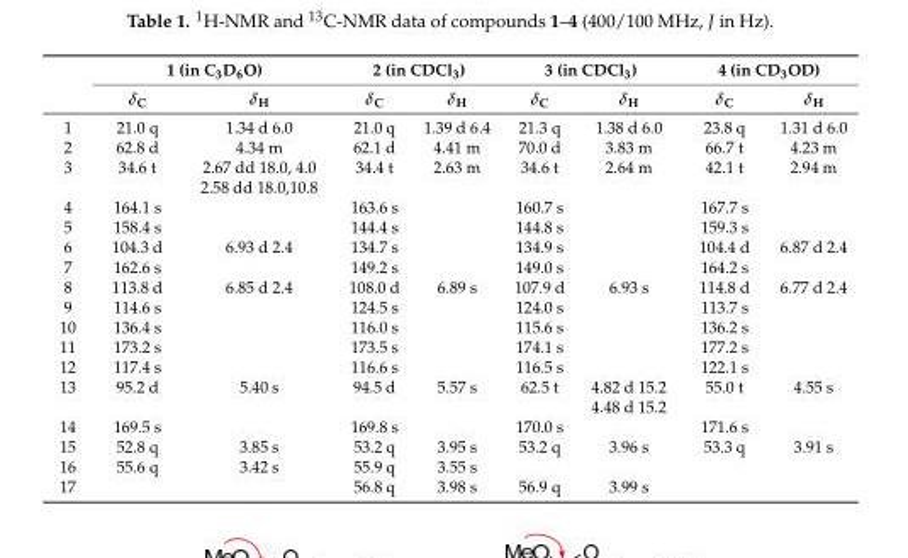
<table><thead><tr><td rowspan="2"></td><td colspan="2">1 (in C<sub>3</sub>D<sub>6</sub>O)</td><td colspan="2">2 (in CDCl<sub>3</sub>)</td><td colspan="2">3 (in CDCl<sub>3</sub>)</td><td colspan="2">4 (in CD<sub>3</sub>OD)</td></tr><tr><td>δ<sub>C</sub></td><td>δ<sub>H</sub></td><td>δ<sub>C</sub></td><td>δ<sub>H</sub></td><td>δ<sub>C</sub></td><td>δ<sub>H</sub></td><td>δ<sub>C</sub></td><td>δ<sub>H</sub></td></tr></thead><tbody><tr><td>1</td><td>21.0 q</td><td>1.34 d 6.0</td><td>21.0 q</td><td>1.39 d 6.4</td><td>21.3 q</td><td>1.38 d 6.0</td><td>23.8 q</td><td>1.31 d 6.0</td></tr><tr><td>2</td><td>62.8 d</td><td>4.34 m</td><td>62.1 d</td><td>4.41 m</td><td>70.0 d</td><td>3.83 m</td><td>66.7 t</td><td>4.23 m</td></tr><tr><td rowspan="2">3</td><td>34.6 t</td><td>2.67 dd 18.0, 4.0</td><td>34.4 t</td><td>2.63 m</td><td>34.6 t</td><td>2.64 m</td><td>42.1 t</td><td>2.94 m</td></tr><tr><td></td><td>2.58 dd 18.0,10.8</td><td></td><td></td><td></td><td></td><td></td><td></td></tr><tr><td>4</td><td>164.1 s</td><td></td><td>163.6 s</td><td></td><td>160.7 s</td><td></td><td>167.7 s</td><td></td></tr><tr><td>5</td><td>158.4 s</td><td></td><td>144.4 s</td><td></td><td>144.8 s</td><td></td><td>159.3 s</td><td></td></tr><tr><td>6</td><td>104.3 d</td><td>6.93 d 2.4</td><td>134.7 s</td><td></td><td>134.9 s</td><td></td><td>104.4 d</td><td>6.87 d 2.4</td></tr><tr><td>7</td><td>162.6 s</td><td></td><td>149.2 s</td><td></td><td>149.0 s</td><td></td><td>164.2 s</td><td></td></tr><tr><td>8</td><td>113.8 d</td><td>6.85 d 2.4</td><td>108.0 d</td><td>6.89 s</td><td>107.9 d</td><td>6.93 s</td><td>114.8 d</td><td>6.77 d 2.4</td></tr><tr><td>9</td><td>114.6 s</td><td></td><td>124.5 s</td><td></td><td>124.0 s</td><td></td><td>113.7 s</td><td></td></tr><tr><td>10</td><td>136.4 s</td><td></td><td>116.0 s</td><td></td><td>115.6 s</td><td></td><td>136.2 s</td><td></td></tr><tr><td>11</td><td>173.2 s</td><td></td><td>173.5 s</td><td></td><td>174.1 s</td><td></td><td>177.2 s</td><td></td></tr><tr><td>12</td><td>117.4 s</td><td></td><td>116.6 s</td><td></td><td>116.5 s</td><td></td><td>122.1 s</td><td></td></tr><tr><td rowspan="2">13</td><td>95.2 d</td><td>5.40 s</td><td>94.5 d</td><td>5.57 s</td><td>62.5 t</td><td>4.82 d 15.2</td><td>55.0 t</td><td>4.55 s</td></tr><tr><td></td><td></td><td></td><td></td><td></td><td>4.48 d 15.2</td><td></td><td></td></tr><tr><td>14</td><td>169.5 s</td><td></td><td>169.8 s</td><td></td><td>170.0 s</td><td></td><td>171.6 s</td><td></td></tr><tr><td>15</td><td>52.8 q</td><td>3.85 s</td><td>53.2 q</td><td>3.95 s</td><td>53.2 q</td><td>3.96 s</td><td>53.3 q</td><td>3.91 s</td></tr><tr><td>16</td><td>55.6 q</td><td>3.42 s</td><td>55.9 q</td><td>3.55 s</td><td></td><td></td><td></td><td></td></tr><tr><td>17</td><td></td><td></td><td>56.8 q</td><td>3.98 s</td><td>56.9 q</td><td>3.99 s</td><td></td><td></td></tr></tbody></table>